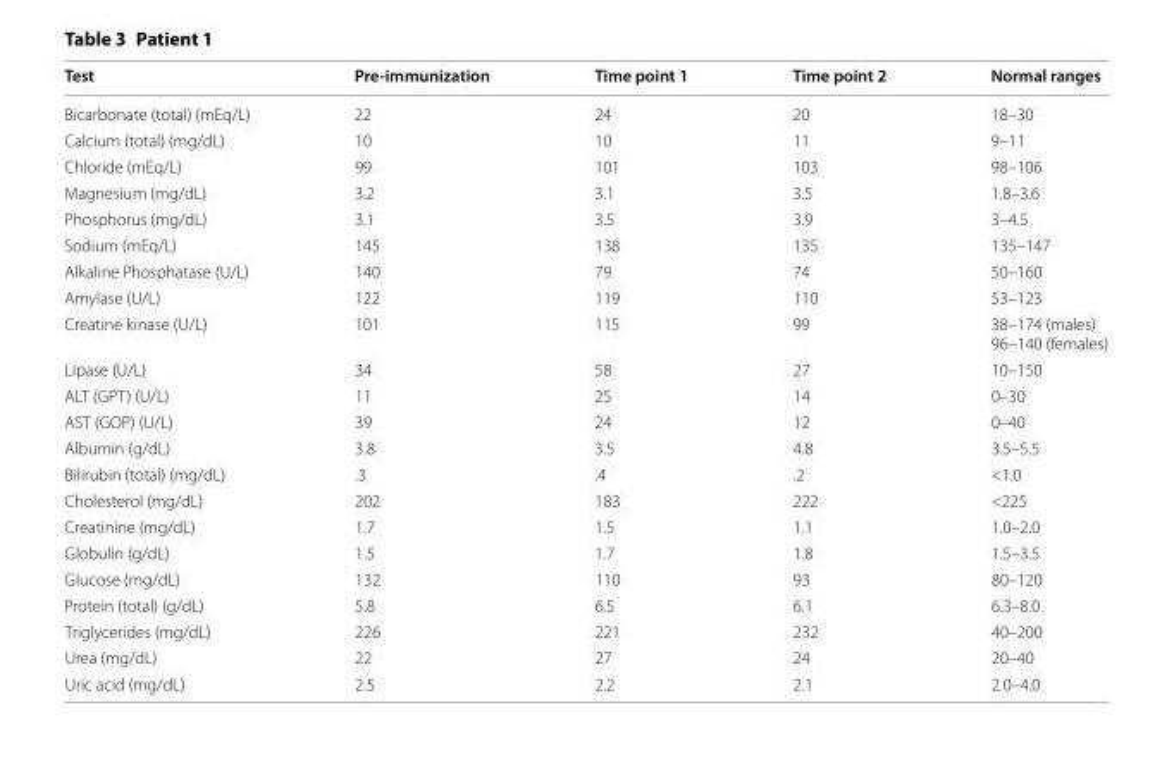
<table><thead><tr><td>Test</td><td>Pre-immunization</td><td>Time point 1</td><td>Time point 2</td><td>Normal ranges</td></tr></thead><tbody><tr><td>Bicarbonate (total) (mEq/L)</td><td>22</td><td>24</td><td>20</td><td>18–30</td></tr><tr><td>Calcium (total) (mg/dL)</td><td>10</td><td>10</td><td>11</td><td>9–11</td></tr><tr><td>Chloride (mEq/L)</td><td>99</td><td>101</td><td>103</td><td>98–106</td></tr><tr><td>Magnesium (mg/dL)</td><td>3.2</td><td>3.1</td><td>3.5</td><td>1.8–3.6</td></tr><tr><td>Phosphorus (mg/dL)</td><td>3.1</td><td>3.5</td><td>3.9</td><td>3–4.5</td></tr><tr><td>Sodium (mEq/L)</td><td>145</td><td>138</td><td>135</td><td>135–147</td></tr><tr><td>Alkaline Phosphatase (U/L)</td><td>140</td><td>79</td><td>74</td><td>50–160</td></tr><tr><td>Amylase (U/L)</td><td>122</td><td>119</td><td>110</td><td>53–123</td></tr><tr><td>Creatine kinase (U/L)</td><td>101</td><td>115</td><td>99</td><td>38–174 (males) 96–140 (females)</td></tr><tr><td>Lipase (U/L)</td><td>34</td><td>58</td><td>27</td><td>10–150</td></tr><tr><td>ALT (GPT) (U/L)</td><td>11</td><td>25</td><td>14</td><td>0–30</td></tr><tr><td>AST (GOP) (U/L)</td><td>39</td><td>24</td><td>12</td><td>0–40</td></tr><tr><td>Albumin (g/dL)</td><td>3.8</td><td>3.5</td><td>4.8</td><td>3.5–5.5</td></tr><tr><td>Bilirubin (total) (mg/dL)</td><td>.3</td><td>.4</td><td>.2</td><td>&lt;1.0</td></tr><tr><td>Cholesterol (mg/dL)</td><td>202</td><td>183</td><td>222</td><td>&lt;225</td></tr><tr><td>Creatinine (mg/dL)</td><td>1.7</td><td>1.5</td><td>1.1</td><td>1.0–2.0</td></tr><tr><td>Globulin (g/dL)</td><td>1.5</td><td>1.7</td><td>1.8</td><td>1.5–3.5</td></tr><tr><td>Glucose (mg/dL)</td><td>132</td><td>110</td><td>93</td><td>80–120</td></tr><tr><td>Protein (total) (g/dL)</td><td>5.8</td><td>6.5</td><td>6.1</td><td>6.3–8.0</td></tr><tr><td>Triglycerides (mg/dL)</td><td>226</td><td>221</td><td>232</td><td>40–200</td></tr><tr><td>Urea (mg/dL)</td><td>22</td><td>27</td><td>24</td><td>20–40</td></tr><tr><td>Uric acid (mg/dL)</td><td>2.5</td><td>2.2</td><td>2.1</td><td>2.0–4.0</td></tr></tbody></table>